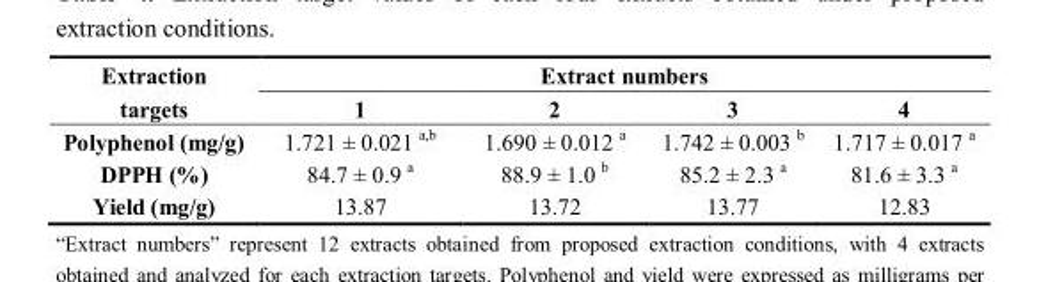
<table><thead><tr><td rowspan="2">Extraction targets</td><td colspan="4">Extract numbers</td></tr><tr><td>1</td><td>2</td><td>3</td><td>4</td></tr></thead><tbody><tr><td>Polyphenol (mg/g)</td><td>1.721 ± 0.021 a,b</td><td>1.690 ± 0.012 a</td><td>1.742 ± 0.003 b</td><td>1.717 ± 0.017 a</td></tr><tr><td>DPPH (%)</td><td>84.7 ± 0.9 a</td><td>88.9 ± 1.0 b</td><td>85.2 ± 2.3 a</td><td>81.6 ± 3.3 a</td></tr><tr><td>Yield (mg/g)</td><td>13.87</td><td>13.72</td><td>13.77</td><td>12.83</td></tr></tbody></table>